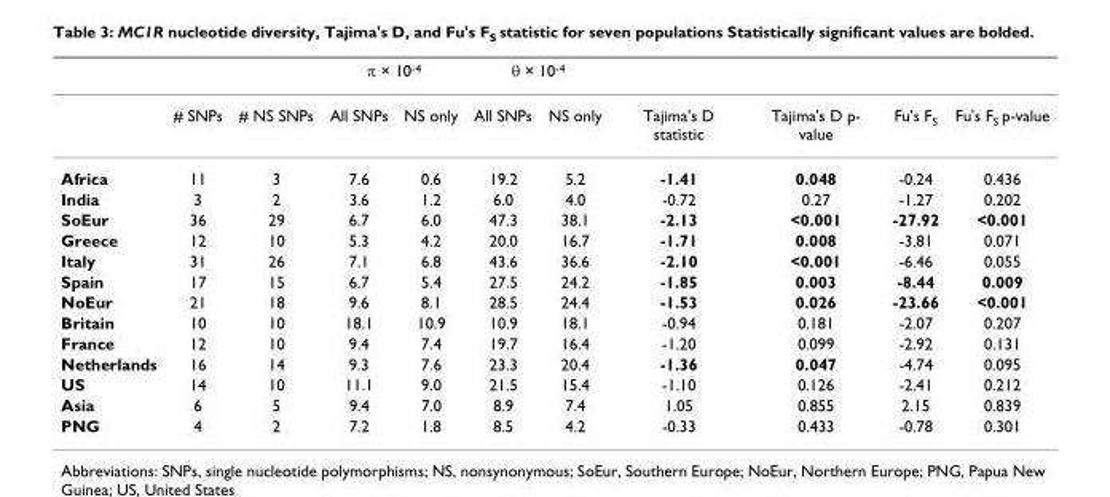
<table><thead><tr><td rowspan="2"></td><td rowspan="2"># SNPs</td><td rowspan="2"># NS SNPs</td><td colspan="2">π × 10<sup>-4</sup></td><td colspan="2">θ × 10<sup>-4</sup></td><td rowspan="2">Tajima&#x27;s D statistic</td><td rowspan="2">Tajima&#x27;s D p- value</td><td rowspan="2">Fu&#x27;s F<sub>S</sub></td><td rowspan="2">Fu&#x27;s F<sub>S</sub> p-value</td></tr><tr><td>All SNPs</td><td>NS only</td><td>All SNPs</td><td>NS only</td></tr></thead><tbody><tr><td>Africa</td><td>11</td><td>3</td><td>7.6</td><td>0.6</td><td>19.2</td><td>5.2</td><td>-1.41</td><td>0.048</td><td>-0.24</td><td>0.436</td></tr><tr><td>India</td><td>3</td><td>2</td><td>3.6</td><td>1.2</td><td>6.0</td><td>4.0</td><td>-0.72</td><td>0.27</td><td>-1.27</td><td>0.202</td></tr><tr><td>SoEur</td><td>36</td><td>29</td><td>6.7</td><td>6.0</td><td>47.3</td><td>38.1</td><td>-2.13</td><td>&lt;0.001</td><td>-27.92</td><td>&lt;0.001</td></tr><tr><td>Greece</td><td>12</td><td>10</td><td>5.3</td><td>4.2</td><td>20.0</td><td>16.7</td><td>-1.71</td><td>0.008</td><td>-3.81</td><td>0.071</td></tr><tr><td>Italy</td><td>31</td><td>26</td><td>7.1</td><td>6.8</td><td>43.6</td><td>36.6</td><td>-2.10</td><td>&lt;0.001</td><td>-6.46</td><td>0.055</td></tr><tr><td>Spain</td><td>17</td><td>15</td><td>6.7</td><td>5.4</td><td>27.5</td><td>24.2</td><td>-1.85</td><td>0.003</td><td>-8.44</td><td>0.009</td></tr><tr><td>NoEur</td><td>21</td><td>18</td><td>9.6</td><td>8.1</td><td>28.5</td><td>24.4</td><td>-1.53</td><td>0.026</td><td>-23.66</td><td>&lt;0.001</td></tr><tr><td>Britain</td><td>10</td><td>10</td><td>18.1</td><td>10.9</td><td>10.9</td><td>18.1</td><td>-0.94</td><td>0.181</td><td>-2.07</td><td>0.207</td></tr><tr><td>France</td><td>12</td><td>10</td><td>9.4</td><td>7.4</td><td>19.7</td><td>16.4</td><td>-1.20</td><td>0.099</td><td>-2.92</td><td>0.131</td></tr><tr><td>Netherlands</td><td>16</td><td>14</td><td>9.3</td><td>7.6</td><td>23.3</td><td>20.4</td><td>-1.36</td><td>0.047</td><td>-4.74</td><td>0.095</td></tr><tr><td>US</td><td>14</td><td>10</td><td>11.1</td><td>9.0</td><td>21.5</td><td>15.4</td><td>-1.10</td><td>0.126</td><td>-2.41</td><td>0.212</td></tr><tr><td>Asia</td><td>6</td><td>5</td><td>9.4</td><td>7.0</td><td>8.9</td><td>7.4</td><td>1.05</td><td>0.855</td><td>2.15</td><td>0.839</td></tr><tr><td>PNG</td><td>4</td><td>2</td><td>7.2</td><td>1.8</td><td>8.5</td><td>4.2</td><td>-0.33</td><td>0.433</td><td>-0.78</td><td>0.301</td></tr></tbody></table>